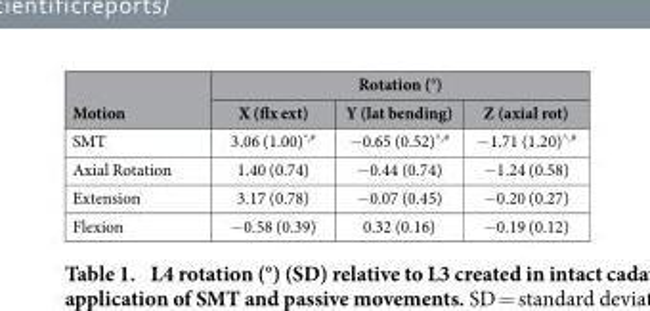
<table><thead><tr><td rowspan="2">Motion</td><td colspan="3">Rotation (°)</td></tr><tr><td>X (flx ext)</td><td>Y (lat bending)</td><td>Z (axial rot)</td></tr></thead><tbody><tr><td>SMT</td><td>3.06 (1.00)<sup>*,#</sup></td><td>− 0.65 (0.52)^,#</td><td>− 1.71 (1.20)^,#</td></tr><tr><td>Axial Rotation</td><td>1.40 (0.74)</td><td>− 0.44 (0.74)</td><td>− 1.24 (0.58)</td></tr><tr><td>Extension</td><td>3.17 (0.78)</td><td>− 0.07 (0.45)</td><td>− 0.20 (0.27)</td></tr><tr><td>Flexion</td><td>− 0.58 (0.39)</td><td>0.32 (0.16)</td><td>− 0.19 (0.12)</td></tr></tbody></table>